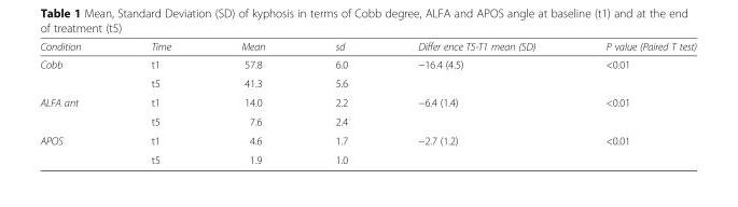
<table><thead><tr><td>Condition</td><td>Time</td><td>Mean</td><td>sd</td><td>Differ ence T5-T1 mean (SD)</td><td>P value (Paired T test)</td></tr></thead><tbody><tr><td rowspan="2">Cobb</td><td>t1</td><td>57.8</td><td>6.0</td><td rowspan="2">−16.4 (4.5)</td><td rowspan="2">&lt;0.01</td></tr><tr><td>t5</td><td>41.3</td><td>5.6</td></tr><tr><td rowspan="2">ALFA ant</td><td>t1</td><td>14.0</td><td>2.2</td><td rowspan="2">−6.4 (1.4)</td><td rowspan="2">&lt;0.01</td></tr><tr><td>t5</td><td>7.6</td><td>2.4</td></tr><tr><td rowspan="2">APOS</td><td>t1</td><td>4.6</td><td>1.7</td><td rowspan="2">−2.7 (1.2)</td><td rowspan="2">&lt;0.01</td></tr><tr><td>t5</td><td>1.9</td><td>1.0</td></tr></tbody></table>